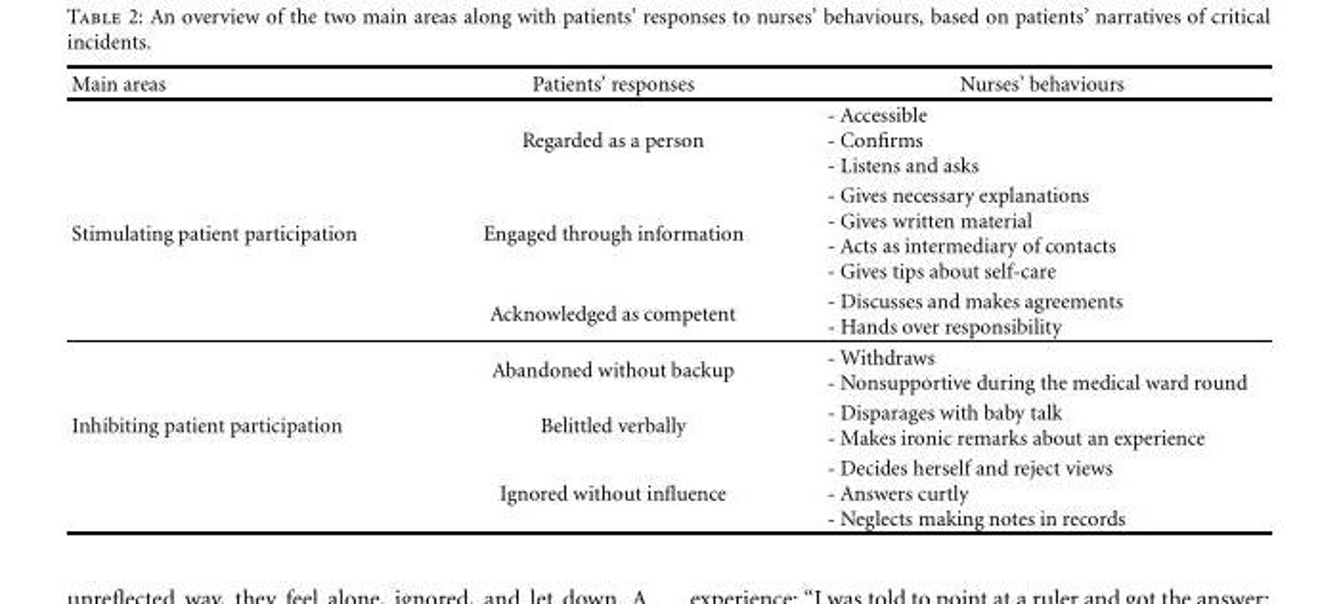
<table><thead><tr><td>Main areas</td><td>Patients’ responses</td><td>Nurses’ behaviours</td></tr></thead><tbody><tr><td></td><td>Regarded as a person</td><td>- Accessible - Confirms - Listens and asks</td></tr><tr><td rowspan="3">Stimulating patient participation</td><td>Engaged through information</td><td>- Gives necessary explanations - Gives written material - Acts as intermediary of contacts - Gives tips about self-care</td></tr><tr><td>Acknowledged as competent</td><td>- Discusses and makes agreements - Hands over responsibility</td></tr><tr><td>Abandoned without backup</td><td>- Withdraws - Nonsupportive during the medical ward round</td></tr><tr><td rowspan="2">Inhibiting patient participation</td><td>Belittled verbally</td><td>- Disparages with baby talk - Makes ironic remarks about an experience</td></tr><tr><td>Ignored without influence</td><td>- Decides herself and reject views - Answers curtly - Neglects making notes in records</td></tr></tbody></table>